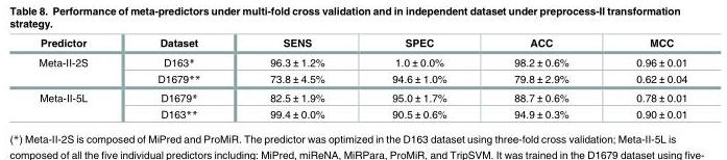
<table><thead><tr><td>Predictor</td><td>Dataset</td><td>SENS</td><td>SPEC</td><td>ACC</td><td>MCC</td></tr></thead><tbody><tr><td rowspan="2">Meta-II-2S</td><td>D163*</td><td>96.3 ± 1.2%</td><td>1.0 ± 0.0%</td><td>98.2 ± 0.6%</td><td>0.96 ± 0.01</td></tr><tr><td>D1679**</td><td>73.8 ± 4.5%</td><td>94.6 ± 1.0%</td><td>79.8 ± 2.9%</td><td>0.62 ± 0.04</td></tr><tr><td rowspan="2">Meta-II-5L</td><td>D1679*</td><td>82.5 ± 1.9%</td><td>95.0 ± 1.7%</td><td>88.7 ± 0.6%</td><td>0.78 ± 0.01</td></tr><tr><td>D163**</td><td>99.4 ± 0.0%</td><td>90.5 ± 0.6%</td><td>94.9 ± 0.3%</td><td>0.90 ± 0.01</td></tr></tbody></table>